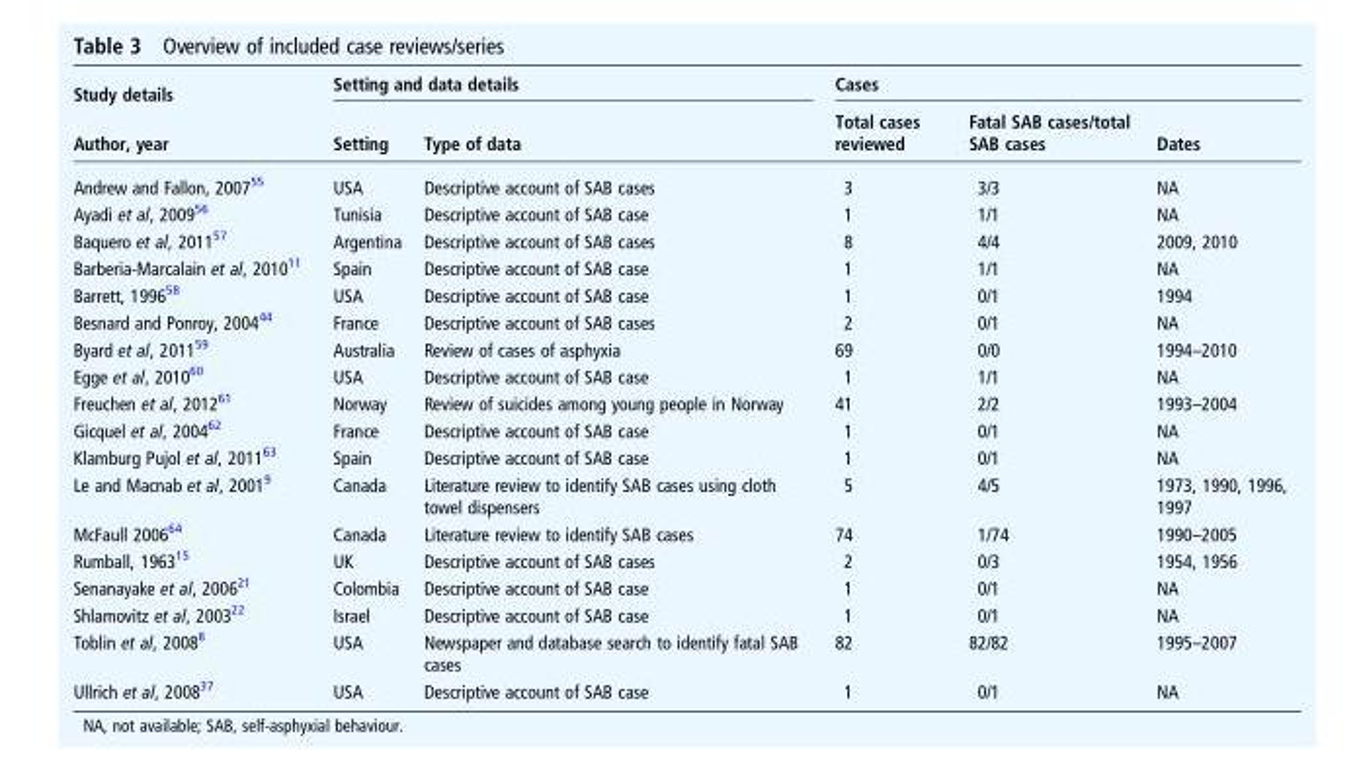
<table><thead><tr><td rowspan="2">Study details Author, year</td><td colspan="2">Setting and data details</td><td colspan="3">Cases</td></tr><tr><td>Setting</td><td>Type of data</td><td>Total cases reviewed</td><td>Fatal SAB cases/total SAB cases</td><td>Dates</td></tr></thead><tbody><tr><td>Andrew and Fallon, 2007<sup>55</sup></td><td>USA</td><td>Descriptive account of SAB cases</td><td>3</td><td>3/3</td><td>NA</td></tr><tr><td>Ayadi et al, 2009<sup>56</sup></td><td>Tunisia</td><td>Descriptive account of SAB case</td><td>1</td><td>1/1</td><td>NA</td></tr><tr><td>Baquero et al, 2011<sup>57</sup></td><td>Argentina</td><td>Descriptive account of SAB cases</td><td>8</td><td>4/4</td><td>2009, 2010</td></tr><tr><td>Barberia-Marcalain et al, 2010<sup>11</sup></td><td>Spain</td><td>Descriptive account of SAB case</td><td>1</td><td>1/1</td><td>NA</td></tr><tr><td>Barrett, 1996<sup>58</sup></td><td>USA</td><td>Descriptive account of SAB case</td><td>1</td><td>0/1</td><td>1994</td></tr><tr><td>Besnard and Ponroy, 2004<sup>44</sup></td><td>France</td><td>Descriptive account of SAB cases</td><td>2</td><td>0/1</td><td>NA</td></tr><tr><td>Byard et al, 2011<sup>59</sup></td><td>Australia</td><td>Review of cases of asphyxia</td><td>69</td><td>0/0</td><td>1994–2010</td></tr><tr><td>Egge et al, 2010<sup>60</sup></td><td>USA</td><td>Descriptive account of SAB case</td><td>1</td><td>1/1</td><td>NA</td></tr><tr><td>Freuchen et al, 2012<sup>61</sup></td><td>Norway</td><td>Review of suicides among young people in Norway</td><td>41</td><td>2/2</td><td>1993–2004</td></tr><tr><td>Gicquel et al, 2004<sup>62</sup></td><td>France</td><td>Descriptive account of SAB case</td><td>1</td><td>0/1</td><td>NA</td></tr><tr><td>Klamburg Pujol et al, 2011<sup>63</sup></td><td>Spain</td><td>Descriptive account of SAB case</td><td>1</td><td>0/1</td><td>NA</td></tr><tr><td>Le and Macnab et al, 2001<sup>9</sup></td><td>Canada</td><td>Literature review to identify SAB cases using cloth towel dispensers</td><td>5</td><td>4/5</td><td>1973, 1990, 1996, 1997</td></tr><tr><td>McFaull 2006<sup>64</sup></td><td>Canada</td><td>Literature review to identify SAB cases</td><td>74</td><td>1/74</td><td>1990–2005</td></tr><tr><td>Rumball, 1963<sup>15</sup></td><td>UK</td><td>Descriptive account of SAB cases</td><td>2</td><td>0/3</td><td>1954, 1956</td></tr><tr><td>Senanayake et al, 2006<sup>21</sup></td><td>Colombia</td><td>Descriptive account of SAB case</td><td>1</td><td>0/1</td><td>NA</td></tr><tr><td>Shlamovitz et al, 2003<sup>22</sup></td><td>Israel</td><td>Descriptive account of SAB case</td><td>1</td><td>0/1</td><td>NA</td></tr><tr><td>Toblin et al, 2008<sup>8</sup></td><td>USA</td><td>Newspaper and database search to identify fatal SAB cases</td><td>82</td><td>82/82</td><td>1995–2007</td></tr><tr><td>Ullrich et al, 2008<sup>37</sup></td><td>USA</td><td>Descriptive account of SAB case</td><td>1</td><td>0/1</td><td>NA</td></tr></tbody></table>